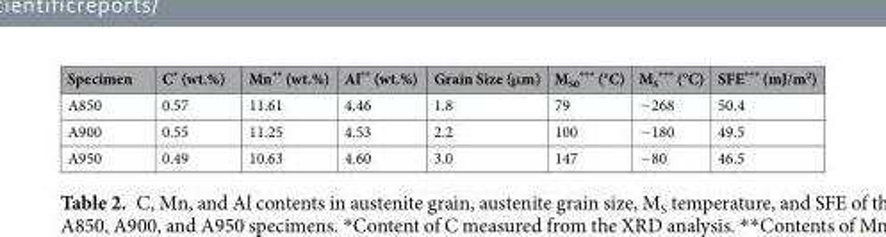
<table><thead><tr><td>Specimen</td><td>C* (wt.%)</td><td>Mn** (wt.%)</td><td>Al** (wt.%)</td><td>Grain Size (μm)</td><td>M<sub>S0</sub> *** (°C)</td><td>M<sub>S</sub> *** (°C)</td><td>SFE*** (mJ/m<sup>2</sup>)</td></tr></thead><tbody><tr><td>A850</td><td>0.57</td><td>11.61</td><td>4.46</td><td>1.8</td><td>79</td><td>−268</td><td>50.4</td></tr><tr><td>A900</td><td>0.55</td><td>11.25</td><td>4.53</td><td>2.2</td><td>100</td><td>−180</td><td>49.5</td></tr><tr><td>A950</td><td>0.49</td><td>10.63</td><td>4.60</td><td>3.0</td><td>147</td><td>−80</td><td>46.5</td></tr></tbody></table>